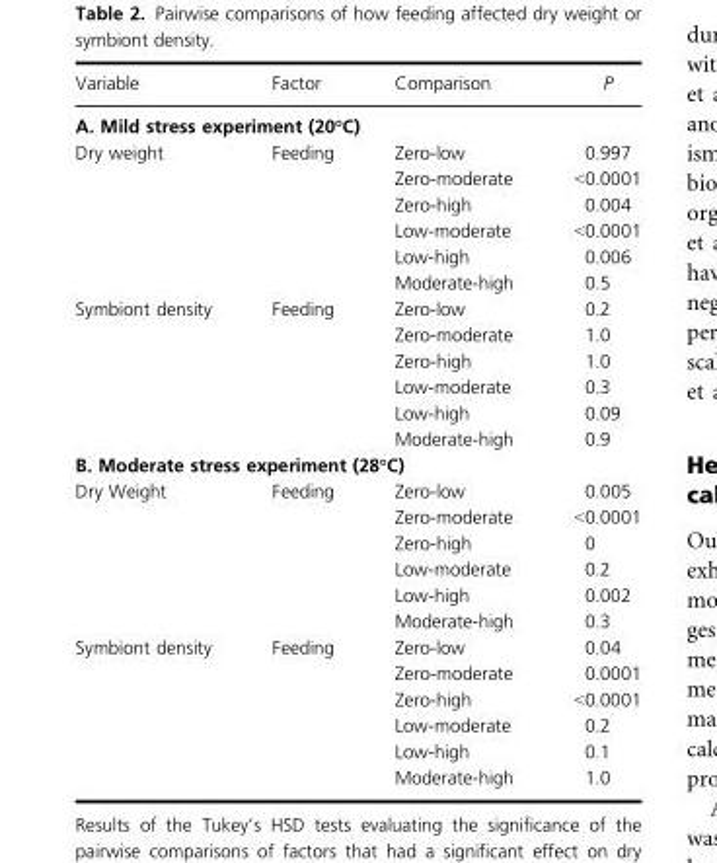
<table><thead><tr><td>Variable</td><td>Factor</td><td>Comparison</td><td>P</td></tr></thead><tbody><tr><td colspan="4">A. Mild stress experiment (20°C)</td></tr><tr><td rowspan="6">Dry weight</td><td rowspan="6">Feeding</td><td>Zero-low</td><td>0.997</td></tr><tr><td>Zero-moderate</td><td>&lt;0.0001</td></tr><tr><td>Zero-high</td><td>0.004</td></tr><tr><td>Low-moderate</td><td>&lt;0.0001</td></tr><tr><td>Low-high</td><td>0.006</td></tr><tr><td>Moderate-high</td><td>0.5</td></tr><tr><td rowspan="6">Symbiont density</td><td rowspan="6">Feeding</td><td>Zero-low</td><td>0.2</td></tr><tr><td>Zero-moderate</td><td>1.0</td></tr><tr><td>Zero-high</td><td>1.0</td></tr><tr><td>Low-moderate</td><td>0.3</td></tr><tr><td>Low-high</td><td>0.09</td></tr><tr><td>Moderate-high</td><td>0.9</td></tr><tr><td colspan="4">B. Moderate stress experiment (28°C)</td></tr><tr><td rowspan="6">Dry Weight</td><td rowspan="6">Feeding</td><td>Zero-low</td><td>0.005</td></tr><tr><td>Zero-moderate</td><td>&lt;0.0001</td></tr><tr><td>Zero-high</td><td>0</td></tr><tr><td>Low-moderate</td><td>0.2</td></tr><tr><td>Low-high</td><td>0.002</td></tr><tr><td>Moderate-high</td><td>0.3</td></tr><tr><td rowspan="6">Symbiont density</td><td rowspan="6">Feeding</td><td>Zero-low</td><td>0.04</td></tr><tr><td>Zero-moderate</td><td>0.0001</td></tr><tr><td>Zero-high</td><td>&lt;0.0001</td></tr><tr><td>Low-moderate</td><td>0.2</td></tr><tr><td>Low-high</td><td>0.1</td></tr><tr><td>Moderate-high</td><td>1.0</td></tr></tbody></table>